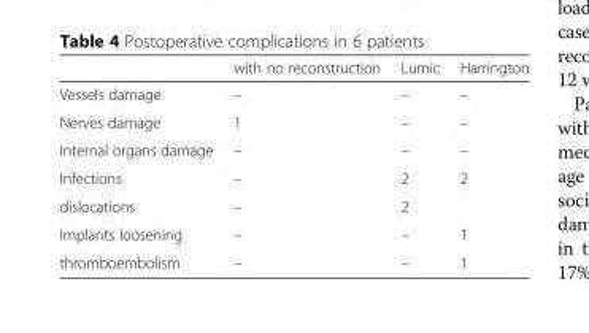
<table><thead><tr><td></td><td>with no reconstruction</td><td>Lumic</td><td>Harrington</td></tr></thead><tbody><tr><td>Vessels damage</td><td>–</td><td>–</td><td>–</td></tr><tr><td>Nerves damage</td><td>1</td><td>–</td><td>–</td></tr><tr><td>Internal organs damage</td><td>–</td><td>–</td><td>–</td></tr><tr><td>Infections</td><td>–</td><td>2</td><td>2</td></tr><tr><td>dislocations</td><td>–</td><td>2</td><td></td></tr><tr><td>Implants loosening</td><td>–</td><td>–</td><td>1</td></tr><tr><td>thromboembolism</td><td>–</td><td>–</td><td>1</td></tr></tbody></table>